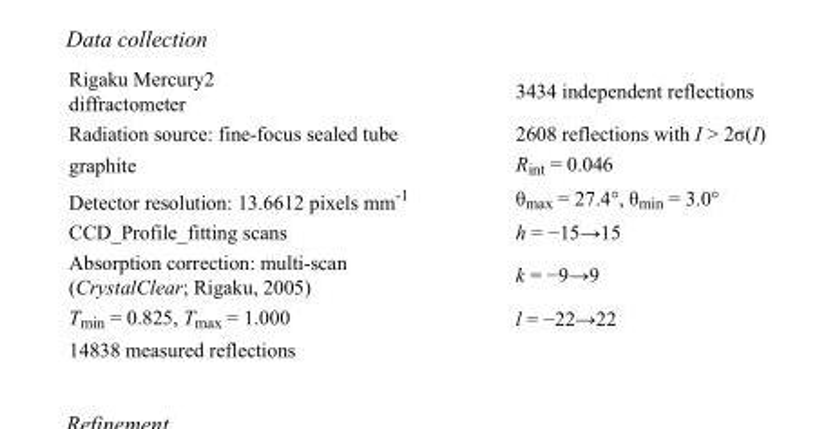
<table><tbody><tr><td>Rigaku Mercury2 diffractometer</td><td>3434 independent reflections</td></tr><tr><td>Radiation source: fine-focus sealed tube</td><td>2608 reflections with I &gt; 2σ(I)</td></tr><tr><td>graphite</td><td>R<sub>int</sub> = 0.046</td></tr><tr><td>Detector resolution: 13.6612 pixels mm<sup>-1</sup></td><td>θ<sub>max</sub> = 27.4°, θ<sub>min</sub> = 3.0°</td></tr><tr><td>CCD_Profile_fitting scans</td><td>h = −15→15</td></tr><tr><td>Absorption correction: multi-scan (CrystalClear; Rigaku, 2005)</td><td>k = −9→9</td></tr><tr><td>T<sub>min</sub> = 0.825, T<sub>max</sub> = 1.000</td><td>l = −22→22</td></tr><tr><td>14838 measured reflections</td><td></td></tr></tbody></table>